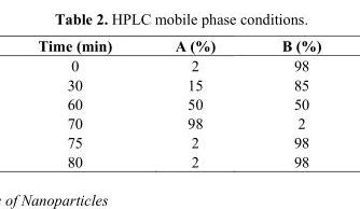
<table><thead><tr><td>Time (min)</td><td>A (%)</td><td>B (%)</td></tr></thead><tbody><tr><td>0</td><td>2</td><td>98</td></tr><tr><td>30</td><td>15</td><td>85</td></tr><tr><td>60</td><td>50</td><td>50</td></tr><tr><td>70</td><td>98</td><td>2</td></tr><tr><td>75</td><td>2</td><td>98</td></tr><tr><td>80</td><td>2</td><td>98</td></tr></tbody></table>